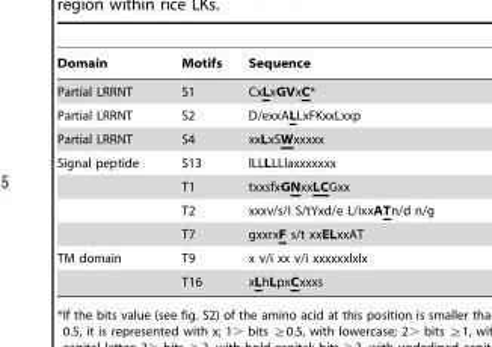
<table><thead><tr><td>Domain</td><td>Motifs</td><td>Sequence</td></tr></thead><tbody><tr><td>Partial LRRNT</td><td>S1</td><td>CxLxGVxC*</td></tr><tr><td>Partial LRRNT</td><td>S2</td><td>D/exxALLxFKxxLxxp</td></tr><tr><td>Partial LRRNT</td><td>S4</td><td>xxLxSWxxxxx</td></tr><tr><td rowspan="4">Signal peptide</td><td>S13</td><td>lLLLLLlaxxxxxxx</td></tr><tr><td>T1</td><td>txxsfxGNxxLCGxx</td></tr><tr><td>T2</td><td>xxxv/s/I S/tYxd/e L/ixxATn/d n/g</td></tr><tr><td>T7</td><td>gxxrxF s/t xxELxxAT</td></tr><tr><td rowspan="2">TM domain</td><td>T9</td><td>x v/i xx v/i xxxxxxlxlx</td></tr><tr><td>T16</td><td>xLhLpxCxxxs</td></tr></tbody></table>